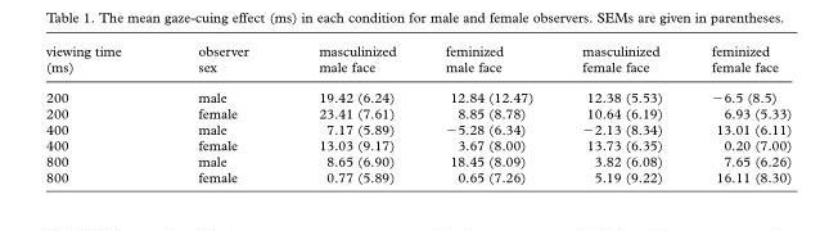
<table><thead><tr><td>viewing time (ms)</td><td>observer sex</td><td>masculinized male face</td><td>feminized male face</td><td>masculinized female face</td><td>feminized female face</td></tr></thead><tbody><tr><td>200</td><td>male</td><td>19.42 (6.24)</td><td>12.84 (12.47)</td><td>12.38 (5.53)</td><td>−6.5 (8.5)</td></tr><tr><td>200</td><td>female</td><td>23.41 (7.61)</td><td>8.85 (8.78)</td><td>10.64 (6.19)</td><td>6.93 (5.33)</td></tr><tr><td>400</td><td>male</td><td>7.17 (5.89)</td><td>−5.28 (6.34)</td><td>−2.13 (8.34)</td><td>13.01 (6.11)</td></tr><tr><td>400</td><td>female</td><td>13.03 (9.17)</td><td>3.67 (8.00)</td><td>13.73 (6.35)</td><td>0.20 (7.00)</td></tr><tr><td>800</td><td>male</td><td>8.65 (6.90)</td><td>18.45 (8.09)</td><td>3.82 (6.08)</td><td>7.65 (6.26)</td></tr><tr><td>800</td><td>female</td><td>0.77 (5.89)</td><td>0.65 (7.26)</td><td>5.19 (9.22)</td><td>16.11 (8.30)</td></tr></tbody></table>